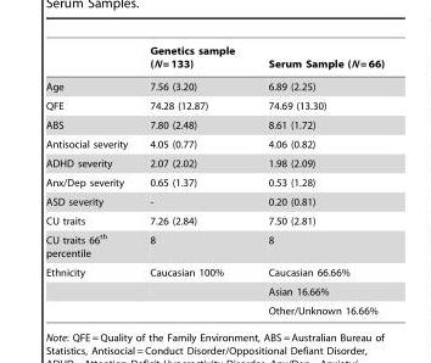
<table><thead><tr><td></td><td>Genetics sample (N = 133)</td><td>Serum Sample (N = 66)</td></tr></thead><tbody><tr><td>Age</td><td>7.56 (3.20)</td><td>6.89 (2.25)</td></tr><tr><td>QFE</td><td>74.28 (12.87)</td><td>74.69 (13.30)</td></tr><tr><td>ABS</td><td>7.80 (2.48)</td><td>8.61 (1.72)</td></tr><tr><td>Antisocial severity</td><td>4.05 (0.77)</td><td>4.06 (0.82)</td></tr><tr><td>ADHD severity</td><td>2.07 (2.02)</td><td>1.98 (2.09)</td></tr><tr><td>Anx/Dep severity</td><td>0.65 (1.37)</td><td>0.53 (1.28)</td></tr><tr><td>ASD severity</td><td>-</td><td>0.20 (0.81)</td></tr><tr><td>CU traits</td><td>7.26 (2.84)</td><td>7.50 (2.81)</td></tr><tr><td>CU traits 66<sup>th</sup> percentile</td><td>8</td><td>8</td></tr><tr><td rowspan="3">Ethnicity</td><td>Caucasian 100%</td><td>Caucasian 66.66%</td></tr><tr><td></td><td>Asian 16.66%</td></tr><tr><td></td><td>Other/Unknown 16.66%</td></tr></tbody></table>